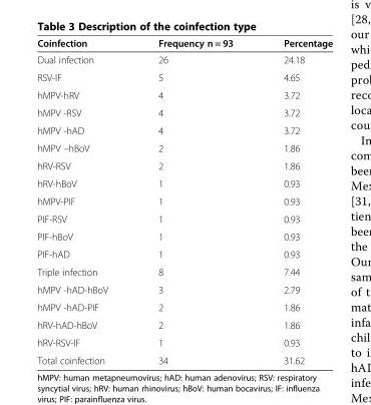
<table><thead><tr><td>Coinfection</td><td>Frequency n = 93</td><td>Percentage</td></tr></thead><tbody><tr><td>Dual infection</td><td>26</td><td>24.18</td></tr><tr><td>RSV-IF</td><td>5</td><td>4.65</td></tr><tr><td>hMPV-hRV</td><td>4</td><td>3.72</td></tr><tr><td>hMPV -RSV</td><td>4</td><td>3.72</td></tr><tr><td>hMPV -hAD</td><td>4</td><td>3.72</td></tr><tr><td>hMPV –hBoV</td><td>2</td><td>1.86</td></tr><tr><td>hRV-RSV</td><td>2</td><td>1.86</td></tr><tr><td>hRV-hBoV</td><td>1</td><td>0.93</td></tr><tr><td>hMPV-PIF</td><td>1</td><td>0.93</td></tr><tr><td>PIF-RSV</td><td>1</td><td>0.93</td></tr><tr><td>PIF-hBoV</td><td>1</td><td>0.93</td></tr><tr><td>PIF-hAD</td><td>1</td><td>0.93</td></tr><tr><td>Triple infection</td><td>8</td><td>7.44</td></tr><tr><td>hMPV -hAD-hBoV</td><td>3</td><td>2.79</td></tr><tr><td>hMPV -hAD-PIF</td><td>2</td><td>1.86</td></tr><tr><td>hRV-hAD-hBoV</td><td>2</td><td>1.86</td></tr><tr><td>hRV-RSV-IF</td><td>1</td><td>0.93</td></tr><tr><td>Total coinfection</td><td>34</td><td>31.62</td></tr></tbody></table>